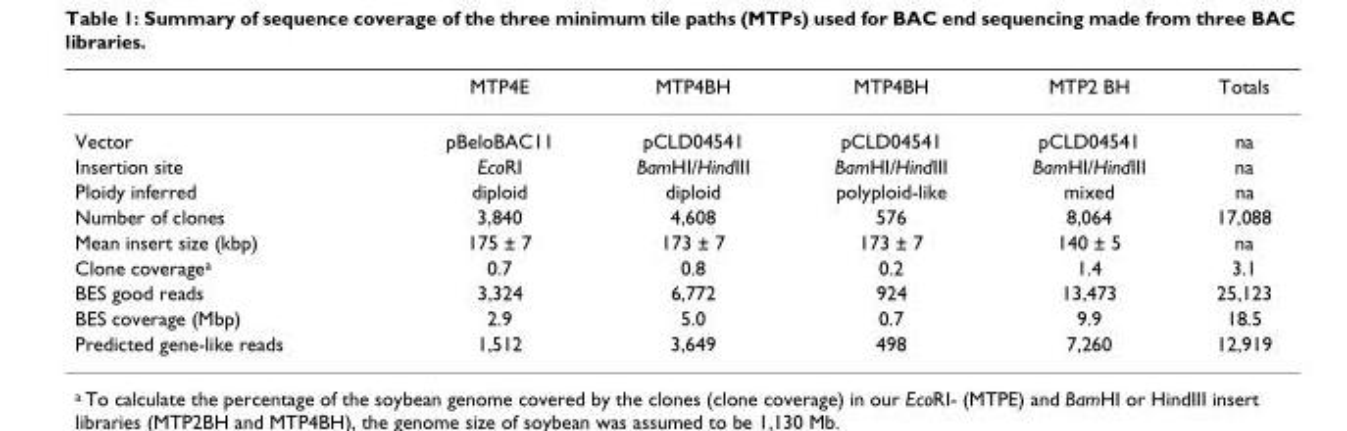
<table><thead><tr><td></td><td>MTP4E</td><td>MTP4BH</td><td>MTP4BH</td><td>MTP2 BH</td><td>Totals</td></tr></thead><tbody><tr><td>Vector</td><td>pBeloBAC11</td><td>pCLD04541</td><td>pCLD04541</td><td>pCLD04541</td><td>na</td></tr><tr><td>Insertion site</td><td>EcoRI</td><td>BamHI/HindIII</td><td>BamHI/HindIII</td><td>BamHI/HindIII</td><td>na</td></tr><tr><td>Ploidy inferred</td><td>diploid</td><td>diploid</td><td>polyploid-like</td><td>mixed</td><td>na</td></tr><tr><td>Number of clones</td><td>3,840</td><td>4,608</td><td>576</td><td>8,064</td><td>17,088</td></tr><tr><td>Mean insert size (kbp)</td><td>175 ± 7</td><td>173 ± 7</td><td>173 ± 7</td><td>140 ± 5</td><td>na</td></tr><tr><td>Clone coverage<sup>a</sup></td><td>0.7</td><td>0.8</td><td>0.2</td><td>1.4</td><td>3.1</td></tr><tr><td>BES good reads</td><td>3,324</td><td>6,772</td><td>924</td><td>13,473</td><td>25,123</td></tr><tr><td>BES coverage (Mbp)</td><td>2.9</td><td>5.0</td><td>0.7</td><td>9.9</td><td>18.5</td></tr><tr><td>Predicted gene-like reads</td><td>1,512</td><td>3,649</td><td>498</td><td>7,260</td><td>12,919</td></tr></tbody></table>